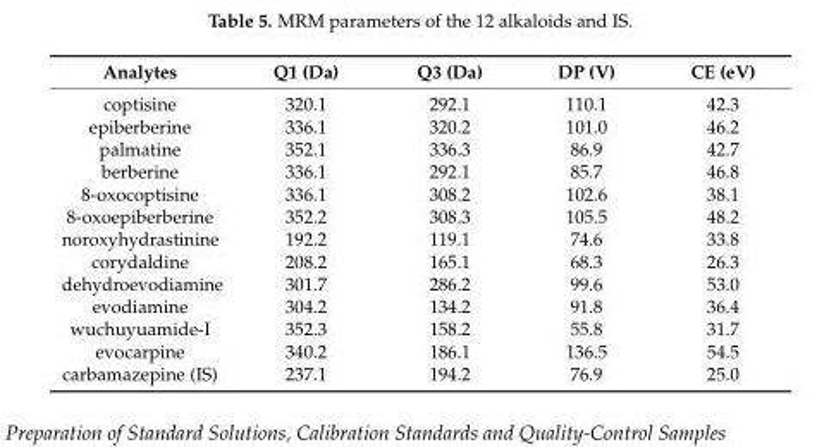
<table><thead><tr><td>Analytes</td><td>Q1 (Da)</td><td>Q3 (Da)</td><td>DP (V)</td><td>CE (eV)</td></tr></thead><tbody><tr><td>coptisine</td><td>320.1</td><td>292.1</td><td>110.1</td><td>42.3</td></tr><tr><td>epiberberine</td><td>336.1</td><td>320.2</td><td>101.0</td><td>46.2</td></tr><tr><td>palmatine</td><td>352.1</td><td>336.3</td><td>86.9</td><td>42.7</td></tr><tr><td>berberine</td><td>336.1</td><td>292.1</td><td>85.7</td><td>46.8</td></tr><tr><td>8-oxocoptisine</td><td>336.1</td><td>308.2</td><td>102.6</td><td>38.1</td></tr><tr><td>8-oxoepiberberine</td><td>352.2</td><td>308.3</td><td>105.5</td><td>48.2</td></tr><tr><td>noroxyhydrastinine</td><td>192.2</td><td>119.1</td><td>74.6</td><td>33.8</td></tr><tr><td>corydaldine</td><td>208.2</td><td>165.1</td><td>68.3</td><td>26.3</td></tr><tr><td>dehydroevodiamine</td><td>301.7</td><td>286.2</td><td>99.6</td><td>53.0</td></tr><tr><td>evodiamine</td><td>304.2</td><td>134.2</td><td>91.8</td><td>36.4</td></tr><tr><td>wuchuyuamide-I</td><td>352.3</td><td>158.2</td><td>55.8</td><td>31.7</td></tr><tr><td>evocarpine</td><td>340.2</td><td>186.1</td><td>136.5</td><td>54.5</td></tr><tr><td>carbamazepine (IS)</td><td>237.1</td><td>194.2</td><td>76.9</td><td>25.0</td></tr></tbody></table>